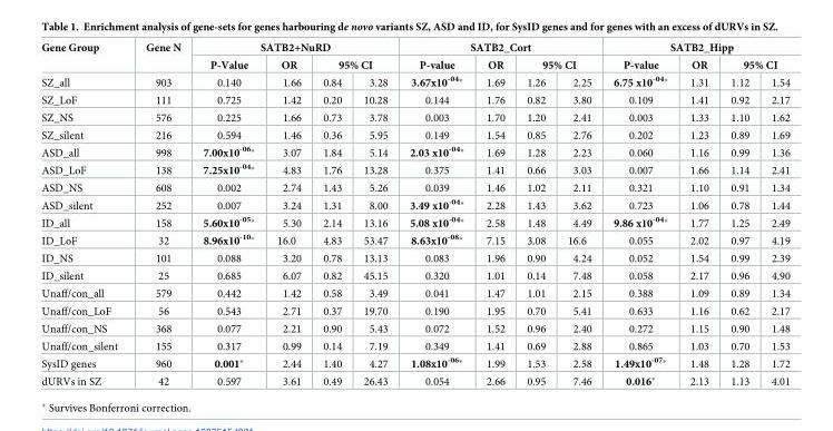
<table><thead><tr><td rowspan="3">Gene Group SZ_all</td><td rowspan="3">Gene N 903</td><td colspan="4">SATB2+NuRD</td><td colspan="4">SATB2_Cort</td><td colspan="4">SATB2_Hipp</td></tr><tr><td rowspan="2">P-Value 0.140</td><td rowspan="2">OR 1.66</td><td colspan="2">95% CI</td><td rowspan="2">P-value 3.67x10-04*</td><td rowspan="2">OR 1.69</td><td colspan="2">95% CI</td><td rowspan="2">P-value 6.75 x10-04*</td><td rowspan="2">OR 1.31</td><td colspan="2">95% CI</td></tr><tr><td>0.84</td><td>3.28</td><td>1.26</td><td>2.25</td><td>1.12</td><td>1.54</td></tr></thead><tbody><tr><td>SZ_LoF</td><td>111</td><td>0.725</td><td>1.42</td><td>0.20</td><td>10.28</td><td>0.144</td><td>1.76</td><td>0.82</td><td>3.80</td><td>0.109</td><td>1.41</td><td>0.92</td><td>2.17</td></tr><tr><td>SZ_NS</td><td>576</td><td>0.225</td><td>1.66</td><td>0.73</td><td>3.78</td><td>0.003</td><td>1.70</td><td>1.20</td><td>2.41</td><td>0.003</td><td>1.33</td><td>1.10</td><td>1.62</td></tr><tr><td>SZ_silent</td><td>216</td><td>0.594</td><td>1.46</td><td>0.36</td><td>5.95</td><td>0.149</td><td>1.54</td><td>0.85</td><td>2.76</td><td>0.202</td><td>1.23</td><td>0.89</td><td>1.69</td></tr><tr><td>ASD_all</td><td>998</td><td>7.00x10<sup>-06</sup>*</td><td>3.07</td><td>1.84</td><td>5.14</td><td>2.03 x10<sup>-04</sup>*</td><td>1.69</td><td>1.28</td><td>2.23</td><td>0.060</td><td>1.16</td><td>0.99</td><td>1.36</td></tr><tr><td>ASD_LoF</td><td>138</td><td>7.25x10<sup>-04</sup>*</td><td>4.83</td><td>1.76</td><td>13.28</td><td>0.375</td><td>1.41</td><td>0.66</td><td>3.03</td><td>0.007</td><td>1.66</td><td>1.14</td><td>2.41</td></tr><tr><td>ASD_NS</td><td>608</td><td>0.002</td><td>2.74</td><td>1.43</td><td>5.26</td><td>0.039</td><td>1.46</td><td>1.02</td><td>2.11</td><td>0.321</td><td>1.10</td><td>0.91</td><td>1.34</td></tr><tr><td>ASD_silent</td><td>252</td><td>0.007</td><td>3.24</td><td>1.31</td><td>8.00</td><td>3.49 x10<sup>-04</sup>*</td><td>2.28</td><td>1.43</td><td>3.62</td><td>0.723</td><td>1.06</td><td>0.78</td><td>1.44</td></tr><tr><td>ID_all</td><td>158</td><td>5.60x10<sup>-05</sup>*</td><td>5.30</td><td>2.14</td><td>13.16</td><td>5.08 x10<sup>-04</sup>*</td><td>2.58</td><td>1.48</td><td>4.49</td><td>9.86 x10<sup>-04</sup>*</td><td>1.77</td><td>1.25</td><td>2.49</td></tr><tr><td>ID_LoF</td><td>32</td><td>8.96x10<sup>-10</sup>*</td><td>16.0</td><td>4.83</td><td>53.47</td><td>8.63x10<sup>-08</sup>*</td><td>7.15</td><td>3.08</td><td>16.6</td><td>0.055</td><td>2.02</td><td>0.97</td><td>4.19</td></tr><tr><td>ID_NS</td><td>101</td><td>0.088</td><td>3.20</td><td>0.78</td><td>13.13</td><td>0.083</td><td>1.96</td><td>0.90</td><td>4.24</td><td>0.052</td><td>1.54</td><td>0.99</td><td>2.39</td></tr><tr><td>ID_silent</td><td>25</td><td>0.685</td><td>6.07</td><td>0.82</td><td>45.15</td><td>0.320</td><td>1.01</td><td>0.14</td><td>7.48</td><td>0.058</td><td>2.17</td><td>0.96</td><td>4.90</td></tr><tr><td>Unaff/con_all</td><td>579</td><td>0.442</td><td>1.42</td><td>0.58</td><td>3.49</td><td>0.041</td><td>1.47</td><td>1.01</td><td>2.15</td><td>0.388</td><td>1.09</td><td>0.89</td><td>1.34</td></tr><tr><td>Unaff/con_LoF</td><td>56</td><td>0.543</td><td>2.71</td><td>0.37</td><td>19.70</td><td>0.190</td><td>1.95</td><td>0.70</td><td>5.41</td><td>0.633</td><td>1.16</td><td>0.62</td><td>2.17</td></tr><tr><td>Unaff/con_NS</td><td>368</td><td>0.077</td><td>2.21</td><td>0.90</td><td>5.43</td><td>0.072</td><td>1.52</td><td>0.96</td><td>2.40</td><td>0.272</td><td>1.15</td><td>0.90</td><td>1.48</td></tr><tr><td>Unaff/con_silent</td><td>155</td><td>0.317</td><td>0.99</td><td>0.14</td><td>7.19</td><td>0.349</td><td>1.41</td><td>0.69</td><td>2.88</td><td>0.865</td><td>1.03</td><td>0.70</td><td>1.53</td></tr><tr><td>SysID genes</td><td>960</td><td>0.001*</td><td>2.44</td><td>1.40</td><td>4.27</td><td>1.08x10<sup>-06</sup>*</td><td>1.99</td><td>1.53</td><td>2.58</td><td>1.49x10<sup>-07</sup>*</td><td>1.48</td><td>1.28</td><td>1.72</td></tr><tr><td>dURVs in SZ</td><td>42</td><td>0.597</td><td>3.61</td><td>0.49</td><td>26.43</td><td>0.054</td><td>2.66</td><td>0.95</td><td>7.46</td><td>0.016*</td><td>2.13</td><td>1.13</td><td>4.01</td></tr></tbody></table>